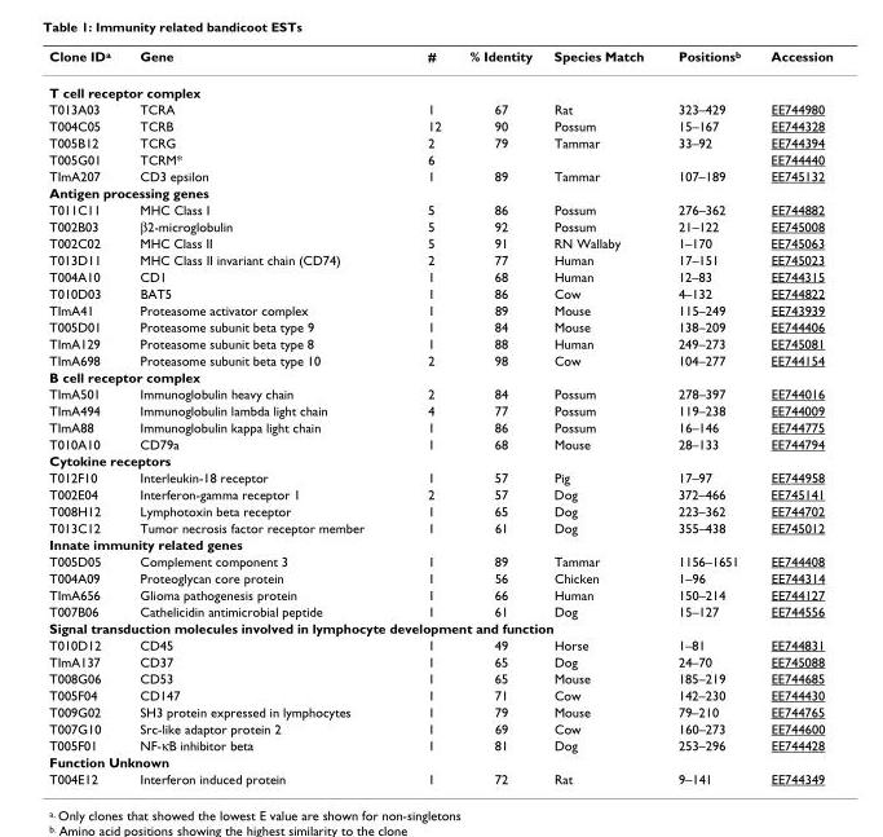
<table><thead><tr><td>Clone IDa</td><td>Gene</td><td>#</td><td>% Identity</td><td>Species Match</td><td>Positionsb</td><td>Accession</td></tr></thead><tbody><tr><td colspan="7">T cell receptor complex</td></tr><tr><td>T013A03</td><td>TCRA</td><td>1</td><td>67</td><td>Rat</td><td>323–429</td><td>EE744980</td></tr><tr><td>T004C05</td><td>TCRB</td><td>12</td><td>90</td><td>Possum</td><td>15–167</td><td>EE744328</td></tr><tr><td>T005B12</td><td>TCRG</td><td>2</td><td>79</td><td>Tammar</td><td>33–92</td><td>EE744394</td></tr><tr><td>T005G01</td><td>TCRM*</td><td>6</td><td></td><td></td><td></td><td>EE744440</td></tr><tr><td>TImA207</td><td>CD3 epsilon</td><td>1</td><td>89</td><td>Tammar</td><td>107–189</td><td>EE745132</td></tr><tr><td colspan="7">Antigen processing genes</td></tr><tr><td>T011C11</td><td>MHC Class I</td><td>5</td><td>86</td><td>Possum</td><td>276–362</td><td>EE744882</td></tr><tr><td>T002B03</td><td>β2-microglobulin</td><td>5</td><td>92</td><td>Possum</td><td>21–122</td><td>EE745008</td></tr><tr><td>T002C02</td><td>MHC Class II</td><td>5</td><td>91</td><td>RN Wallaby</td><td>1–170</td><td>EE745063</td></tr><tr><td>T013D11</td><td>MHC Class II invariant chain (CD74)</td><td>2</td><td>77</td><td>Human</td><td>17–151</td><td>EE745023</td></tr><tr><td>T004A10</td><td>CD1</td><td>1</td><td>68</td><td>Human</td><td>12–83</td><td>EE744315</td></tr><tr><td>T010D03</td><td>BAT5</td><td>1</td><td>86</td><td>Cow</td><td>4–132</td><td>EE744822</td></tr><tr><td>TImA41</td><td>Proteasome activator complex</td><td>1</td><td>89</td><td>Mouse</td><td>115–249</td><td>EE743939</td></tr><tr><td>T005D01</td><td>Proteasome subunit beta type 9</td><td>1</td><td>84</td><td>Mouse</td><td>138–209</td><td>EE744406</td></tr><tr><td>TImA129</td><td>Proteasome subunit beta type 8</td><td>1</td><td>88</td><td>Human</td><td>249–273</td><td>EE745081</td></tr><tr><td>TImA698</td><td>Proteasome subunit beta type 10</td><td>2</td><td>98</td><td>Cow</td><td>104–277</td><td>EE744154</td></tr><tr><td colspan="7">B cell receptor complex</td></tr><tr><td>TImA501</td><td>Immunoglobulin heavy chain</td><td>2</td><td>84</td><td>Possum</td><td>278–397</td><td>EE744016</td></tr><tr><td>TImA494</td><td>Immunoglobulin lambda light chain</td><td>4</td><td>77</td><td>Possum</td><td>119–238</td><td>EE744009</td></tr><tr><td>TImA88</td><td>Immunoglobulin kappa light chain</td><td>1</td><td>86</td><td>Possum</td><td>16–146</td><td>EE744775</td></tr><tr><td>T010A10</td><td>CD79a</td><td>1</td><td>68</td><td>Mouse</td><td>28–133</td><td>EE744794</td></tr><tr><td colspan="7">Cytokine receptors</td></tr><tr><td>T012F10</td><td>Interleukin-18 receptor</td><td>1</td><td>57</td><td>Pig</td><td>17–97</td><td>EE744958</td></tr><tr><td>T002E04</td><td>Interferon-gamma receptor 1</td><td>2</td><td>57</td><td>Dog</td><td>372–466</td><td>EE745141</td></tr><tr><td>T008H12</td><td>Lymphotoxin beta receptor</td><td>1</td><td>65</td><td>Dog</td><td>223–362</td><td>EE744702</td></tr><tr><td>T013C12</td><td>Tumor necrosis factor receptor member</td><td>1</td><td>61</td><td>Dog</td><td>355–438</td><td>EE745012</td></tr><tr><td colspan="7">Innate immunity related genes</td></tr><tr><td>T005D05</td><td>Complement component 3</td><td>1</td><td>89</td><td>Tammar</td><td>1156–1651</td><td>EE744408</td></tr><tr><td>T004A09</td><td>Proteoglycan core protein</td><td>1</td><td>56</td><td>Chicken</td><td>1–96</td><td>EE744314</td></tr><tr><td>TImA656</td><td>Glioma pathogenesis protein</td><td>1</td><td>66</td><td>Human</td><td>150–214</td><td>EE744127</td></tr><tr><td>T007B06</td><td>Cathelicidin antimicrobial peptide</td><td>1</td><td>61</td><td>Dog</td><td>15–127</td><td>EE744556</td></tr><tr><td colspan="7">Signal transduction molecules involved in lymphocyte development and function</td></tr><tr><td>T010D12</td><td>CD45</td><td>1</td><td>49</td><td>Horse</td><td>1–81</td><td>EE744831</td></tr><tr><td>TImA137</td><td>CD37</td><td>1</td><td>65</td><td>Dog</td><td>24–70</td><td>EE745088</td></tr><tr><td>T008G06</td><td>CD53</td><td>1</td><td>65</td><td>Mouse</td><td>185–219</td><td>EE744685</td></tr><tr><td>T005F04</td><td>CD147</td><td>1</td><td>71</td><td>Cow</td><td>142–230</td><td>EE744430</td></tr><tr><td>T009G02</td><td>SH3 protein expressed in lymphocytes</td><td>1</td><td>79</td><td>Mouse</td><td>79–210</td><td>EE744765</td></tr><tr><td>T007G10</td><td>Src-like adaptor protein 2</td><td>1</td><td>69</td><td>Cow</td><td>160–273</td><td>EE744600</td></tr><tr><td>T005F01</td><td>NF-κB inhibitor beta</td><td>1</td><td>81</td><td>Dog</td><td>253–296</td><td>EE744428</td></tr><tr><td colspan="7">Function Unknown</td></tr><tr><td>T004E12</td><td>Interferon induced protein</td><td>1</td><td>72</td><td>Rat</td><td>9–141</td><td>EE744349</td></tr></tbody></table>